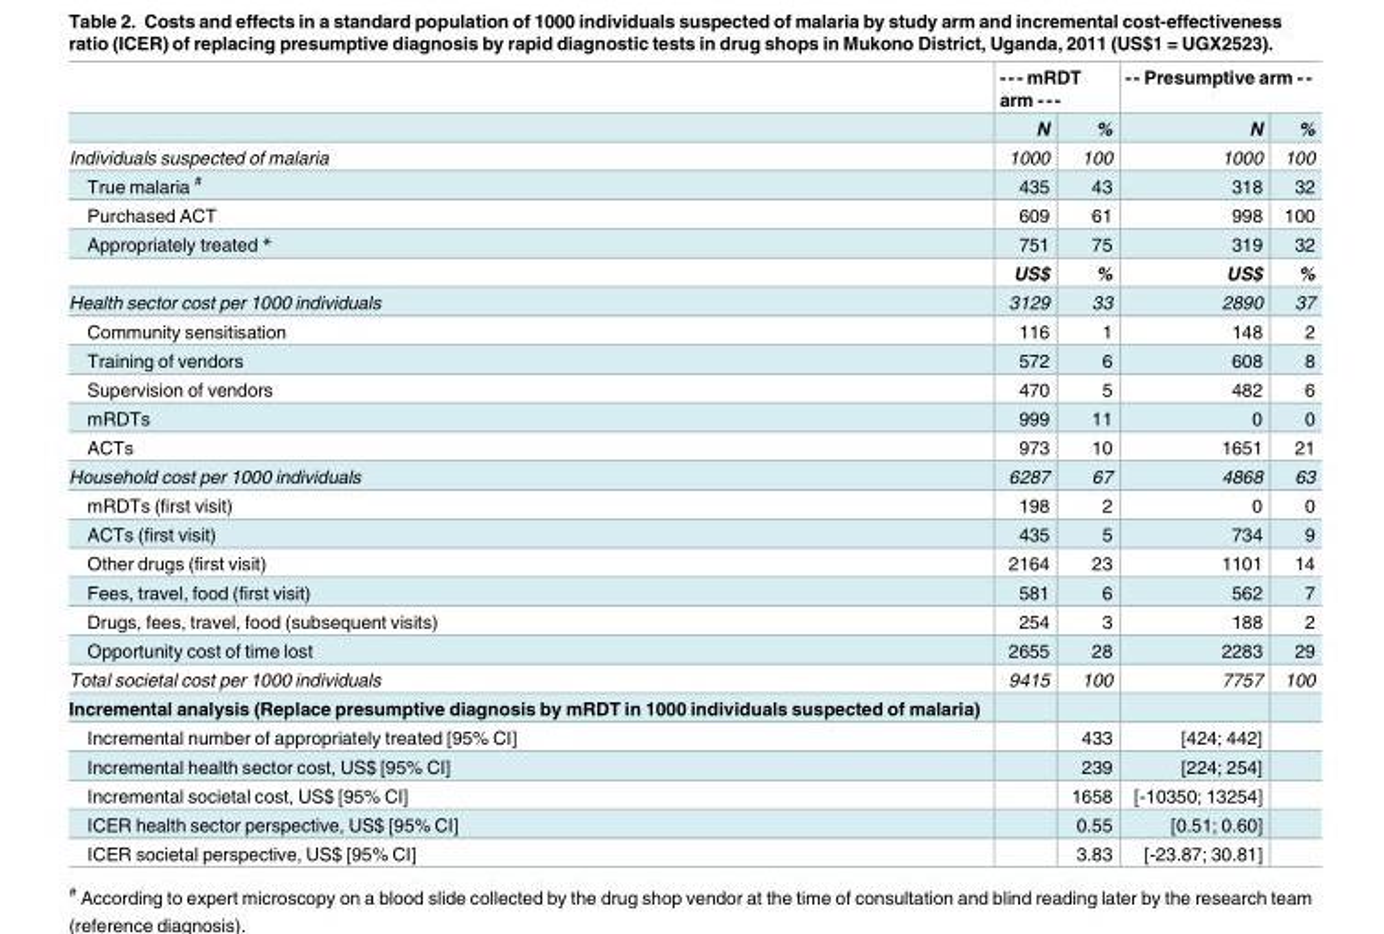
<table><thead><tr><td rowspan="2"></td><td colspan="2">--- mRDT arm ---</td><td colspan="2">-- Presumptive arm --</td></tr><tr><td>N</td><td>%</td><td>N</td><td>%</td></tr></thead><tbody><tr><td>Individuals suspected of malaria</td><td>1000</td><td>100</td><td>1000</td><td>100</td></tr><tr><td>True malaria <sup>#</sup></td><td>435</td><td>43</td><td>318</td><td>32</td></tr><tr><td>Purchased ACT</td><td>609</td><td>61</td><td>998</td><td>100</td></tr><tr><td rowspan="2">Appropriately treated *</td><td>751</td><td>75</td><td>319</td><td>32</td></tr><tr><td>US$</td><td>%</td><td>US$</td><td>%</td></tr><tr><td>Health sector cost per 1000 individuals</td><td>3129</td><td>33</td><td>2890</td><td>37</td></tr><tr><td>Community sensitisation</td><td>116</td><td>1</td><td>148</td><td>2</td></tr><tr><td>Training of vendors</td><td>572</td><td>6</td><td>608</td><td>8</td></tr><tr><td>Supervision of vendors</td><td>470</td><td>5</td><td>482</td><td>6</td></tr><tr><td>mRDTs</td><td>999</td><td>11</td><td>0</td><td>0</td></tr><tr><td>ACTs</td><td>973</td><td>10</td><td>1651</td><td>21</td></tr><tr><td>Household cost per 1000 individuals</td><td>6287</td><td>67</td><td>4868</td><td>63</td></tr><tr><td>mRDTs (first visit)</td><td>198</td><td>2</td><td>0</td><td>0</td></tr><tr><td>ACTs (first visit)</td><td>435</td><td>5</td><td>734</td><td>9</td></tr><tr><td>Other drugs (first visit)</td><td>2164</td><td>23</td><td>1101</td><td>14</td></tr><tr><td>Fees, travel, food (first visit)</td><td>581</td><td>6</td><td>562</td><td>7</td></tr><tr><td>Drugs, fees, travel, food (subsequent visits)</td><td>254</td><td>3</td><td>188</td><td>2</td></tr><tr><td>Opportunity cost of time lost</td><td>2655</td><td>28</td><td>2283</td><td>29</td></tr><tr><td>Total societal cost per 1000 individuals</td><td>9415</td><td>100</td><td>7757</td><td>100</td></tr><tr><td colspan="5">Incremental analysis (Replace presumptive diagnosis by mRDT in 1000 individuals suspected of malaria)</td></tr><tr><td>Incremental number of appropriately treated [95% CI]</td><td></td><td>433</td><td>[424; 442]</td><td></td></tr><tr><td>Incremental health sector cost, US$ [95% CI]</td><td></td><td>239</td><td>[224; 254]</td><td></td></tr><tr><td>Incremental societal cost, US$ [95% CI]</td><td></td><td>1658</td><td>[-10350; 13254]</td><td></td></tr><tr><td>ICER health sector perspective, US$ [95% CI]</td><td></td><td>0.55</td><td>[0.51; 0.60]</td><td></td></tr><tr><td>ICER societal perspective, US$ [95% CI]</td><td></td><td>3.83</td><td>[-23.87; 30.81]</td><td></td></tr></tbody></table>